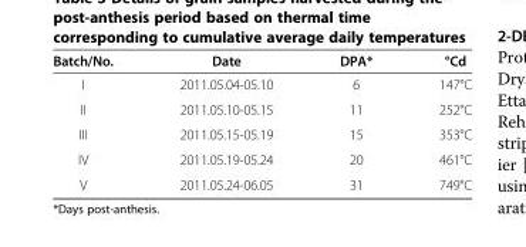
<table><thead><tr><td>Batch/No.</td><td>Date</td><td>DPA*</td><td>°Cd</td></tr></thead><tbody><tr><td>I</td><td>2011.05.04-05.10</td><td>6</td><td>147°C</td></tr><tr><td>II</td><td>2011.05.10-05.15</td><td>11</td><td>252°C</td></tr><tr><td>III</td><td>2011.05.15-05.19</td><td>15</td><td>353°C</td></tr><tr><td>IV</td><td>2011.05.19-05.24</td><td>20</td><td>461°C</td></tr><tr><td>V</td><td>2011.05.24-06.05</td><td>31</td><td>749°C</td></tr></tbody></table>